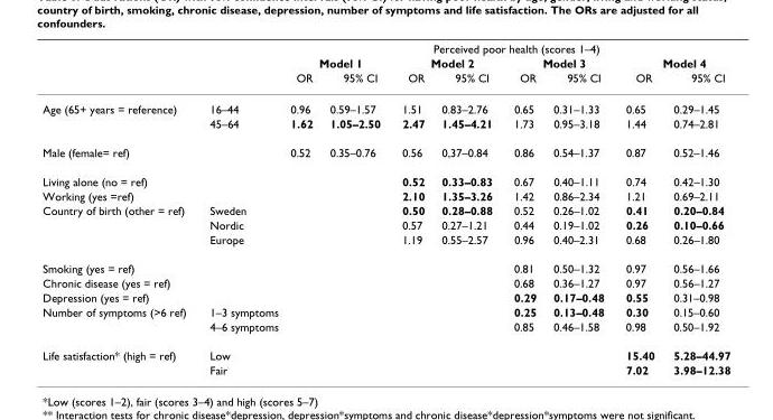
<table><thead><tr><td rowspan="3"></td><td rowspan="3"></td><td colspan="8">Perceived poor health (scores 1–4)</td></tr><tr><td colspan="2">Model 1</td><td colspan="2">Model 2</td><td colspan="2">Model 3</td><td colspan="2">Model 4</td></tr><tr><td>OR</td><td>95% CI</td><td>OR</td><td>95% CI</td><td>OR</td><td>95% CI</td><td>OR</td><td>95% CI</td></tr></thead><tbody><tr><td rowspan="2">Age (65+ years = reference)</td><td>16–44</td><td>0.96</td><td>0.59–1.57</td><td>1.51</td><td>0.83–2.76</td><td>0.65</td><td>0.31–1.33</td><td>0.65</td><td>0.29–1.45</td></tr><tr><td>45–64</td><td>1.62</td><td>1.05–2.50</td><td>2.47</td><td>1.45–4.21</td><td>1.73</td><td>0.95–3.18</td><td>1.44</td><td>0.74–2.81</td></tr><tr><td>Male (female= ref)</td><td></td><td>0.52</td><td>0.35–0.76</td><td>0.56</td><td>0,37–0.84</td><td>0.86</td><td>0.54–1.37</td><td>0.87</td><td>0.52–1.46</td></tr><tr><td>Living alone (no = ref)</td><td></td><td></td><td></td><td>0.52</td><td>0.33–0.83</td><td>0.67</td><td>0.40–1.11</td><td>0.74</td><td>0.42–1.30</td></tr><tr><td>Working (yes =ref)</td><td></td><td></td><td></td><td>2.10</td><td>1.35–3.26</td><td>1.42</td><td>0.86–2.34</td><td>1.21</td><td>0.69–2.11</td></tr><tr><td rowspan="3">Country of birth (other = ref)</td><td>Sweden</td><td></td><td></td><td>0.50</td><td>0.28–0.88</td><td>0.52</td><td>0.26–1.02</td><td>0.41</td><td>0.20–0.84</td></tr><tr><td>Nordic</td><td></td><td></td><td>0.57</td><td>0.27–1.21</td><td>0.44</td><td>0.19–1.02</td><td>0.26</td><td>0.10–0.66</td></tr><tr><td>Europe</td><td></td><td></td><td>1.19</td><td>0.55–2.57</td><td>0.96</td><td>0.40–2.31</td><td>0.68</td><td>0.26–1.80</td></tr><tr><td>Smoking (yes = ref)</td><td></td><td></td><td></td><td></td><td></td><td>0.81</td><td>0.50–1.32</td><td>0.97</td><td>0.56–1.66</td></tr><tr><td>Chronic disease (yes = ref)</td><td></td><td></td><td></td><td></td><td></td><td>0.68</td><td>0.36–1.27</td><td>0.97</td><td>0.56–1.27</td></tr><tr><td>Depression (yes = ref)</td><td></td><td></td><td></td><td></td><td></td><td>0.29</td><td>0.17–0.48</td><td>0.55</td><td>0.31–0.98</td></tr><tr><td rowspan="2">Number of symptoms (&gt;6 ref)</td><td>1–3 symptoms</td><td></td><td></td><td></td><td></td><td>0.25</td><td>0.13–0.48</td><td>0.30</td><td>0.15–0.60</td></tr><tr><td>4–6 symptoms</td><td></td><td></td><td></td><td></td><td>0.85</td><td>0.46–1.58</td><td>0.98</td><td>0.50–1.92</td></tr><tr><td rowspan="2">Life satisfaction* (high = ref)</td><td>Low</td><td></td><td></td><td></td><td></td><td></td><td></td><td>15.40</td><td>5.28–44.97</td></tr><tr><td>Fair</td><td></td><td></td><td></td><td></td><td></td><td></td><td>7.02</td><td>3.98–12.38</td></tr></tbody></table>